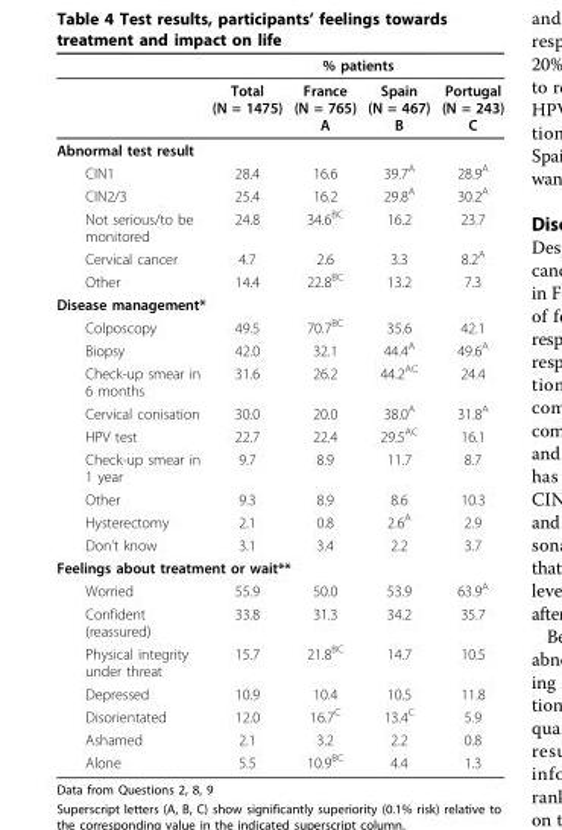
<table><thead><tr><td rowspan="2"></td><td colspan="4">% patients</td></tr><tr><td>Total (N = 1475)</td><td>France (N = 765) A</td><td>Spain (N = 467) B</td><td>Portugal (N = 243) C</td></tr></thead><tbody><tr><td colspan="5">Abnormal test result</td></tr><tr><td>CIN1</td><td>28.4</td><td>16.6</td><td>39.7<sup>A</sup></td><td>28.9<sup>A</sup></td></tr><tr><td>CIN2/3</td><td>25.4</td><td>16.2</td><td>29.8<sup>A</sup></td><td>30.2<sup>A</sup></td></tr><tr><td>Not serious/to be monitored</td><td>24.8</td><td>34.6<sup>BC</sup></td><td>16.2</td><td>23.7</td></tr><tr><td>Cervical cancer</td><td>4.7</td><td>2.6</td><td>3.3</td><td>8.2<sup>A</sup></td></tr><tr><td>Other</td><td>14.4</td><td>22.8<sup>BC</sup></td><td>13.2</td><td>7.3</td></tr><tr><td colspan="5">Disease management*</td></tr><tr><td>Colposcopy</td><td>49.5</td><td>70.7<sup>BC</sup></td><td>35.6</td><td>42.1</td></tr><tr><td>Biopsy</td><td>42.0</td><td>32.1</td><td>44.4<sup>A</sup></td><td>49.6<sup>A</sup></td></tr><tr><td>Check-up smear in 6 months</td><td>31.6</td><td>26.2</td><td>44.2<sup>AC</sup></td><td>24.4</td></tr><tr><td>Cervical conisation</td><td>30.0</td><td>20.0</td><td>38.0<sup>A</sup></td><td>31.8<sup>A</sup></td></tr><tr><td>HPV test</td><td>22.7</td><td>22.4</td><td>29.5<sup>AC</sup></td><td>16.1</td></tr><tr><td>Check-up smear in 1 year</td><td>9.7</td><td>8.9</td><td>11.7</td><td>8.7</td></tr><tr><td>Other</td><td>9.3</td><td>8.9</td><td>8.6</td><td>10.3</td></tr><tr><td>Hysterectomy</td><td>2.1</td><td>0.8</td><td>2.6<sup>A</sup></td><td>2.9</td></tr><tr><td>Don’t know</td><td>3.1</td><td>3.4</td><td>2.2</td><td>3.7</td></tr><tr><td colspan="5">Feelings about treatment or wait**</td></tr><tr><td>Worried</td><td>55.9</td><td>50.0</td><td>53.9</td><td>63.9<sup>A</sup></td></tr><tr><td>Confident (reassured)</td><td>33.8</td><td>31.3</td><td>34.2</td><td>35.7</td></tr><tr><td>Physical integrity under threat</td><td>15.7</td><td>21.8<sup>BC</sup></td><td>14.7</td><td>10.5</td></tr><tr><td>Depressed</td><td>10.9</td><td>10.4</td><td>10.5</td><td>11.8</td></tr><tr><td>Disorientated</td><td>12.0</td><td>16.7<sup>C</sup></td><td>13.4<sup>C</sup></td><td>5.9</td></tr><tr><td>Ashamed</td><td>2.1</td><td>3.2</td><td>2.2</td><td>0.8</td></tr><tr><td>Alone</td><td>5.5</td><td>10.9<sup>BC</sup></td><td>4.4</td><td>1.3</td></tr></tbody></table>